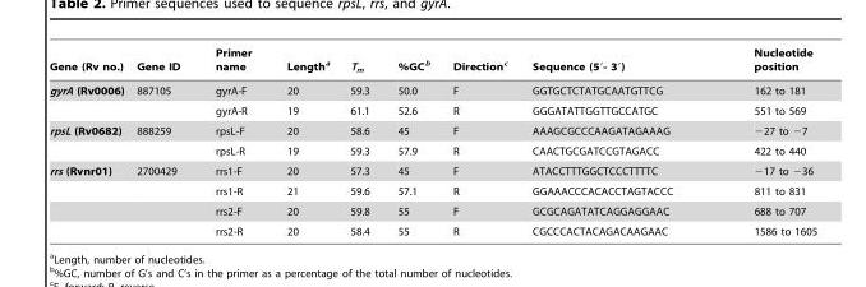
<table><thead><tr><td>Gene (Rv no.)</td><td>Gene ID</td><td>Primer name</td><td>Length<sup>a</sup></td><td>T<sub>m</sub></td><td>%GC<sup>b</sup></td><td>Direction<sup>c</sup></td><td>Sequence (5′- 3′)</td><td>Nucleotide position</td></tr></thead><tbody><tr><td rowspan="2">gyrA (Rv0006)</td><td>887105</td><td>gyrA-F</td><td>20</td><td>59.3</td><td>50.0</td><td>F</td><td>GGTGCTCTATGCAATGTTCG</td><td>162 to 181</td></tr><tr><td></td><td>gyrA-R</td><td>19</td><td>61.1</td><td>52.6</td><td>R</td><td>GGGATATTGGTTGCCATGC</td><td>551 to 569</td></tr><tr><td rowspan="2">rpsL (Rv0682)</td><td>888259</td><td>rpsL-F</td><td>20</td><td>58.6</td><td>45</td><td>F</td><td>AAAGCGCCCAAGATAGAAAG</td><td>−27 to −7</td></tr><tr><td></td><td>rpsL-R</td><td>19</td><td>59.3</td><td>57.9</td><td>R</td><td>CAACTGCGATCCGTAGACC</td><td>422 to 440</td></tr><tr><td rowspan="4">rrs (Rvnr01)</td><td>2700429</td><td>rrs1-F</td><td>20</td><td>57.3</td><td>45</td><td>F</td><td>ATACCTTTGGCTCCCTTTTC</td><td>−17 to −36</td></tr><tr><td></td><td>rrs1-R</td><td>21</td><td>59.6</td><td>57.1</td><td>R</td><td>GGAAACCCACACCTAGTACCC</td><td>811 to 831</td></tr><tr><td></td><td>rrs2-F</td><td>20</td><td>59.8</td><td>55</td><td>F</td><td>GCGCAGATATCAGGAGGAAC</td><td>688 to 707</td></tr><tr><td></td><td>rrs2-R</td><td>20</td><td>58.4</td><td>55</td><td>R</td><td>CGCCCACTACAGACAAGAAC</td><td>1586 to 1605</td></tr></tbody></table>